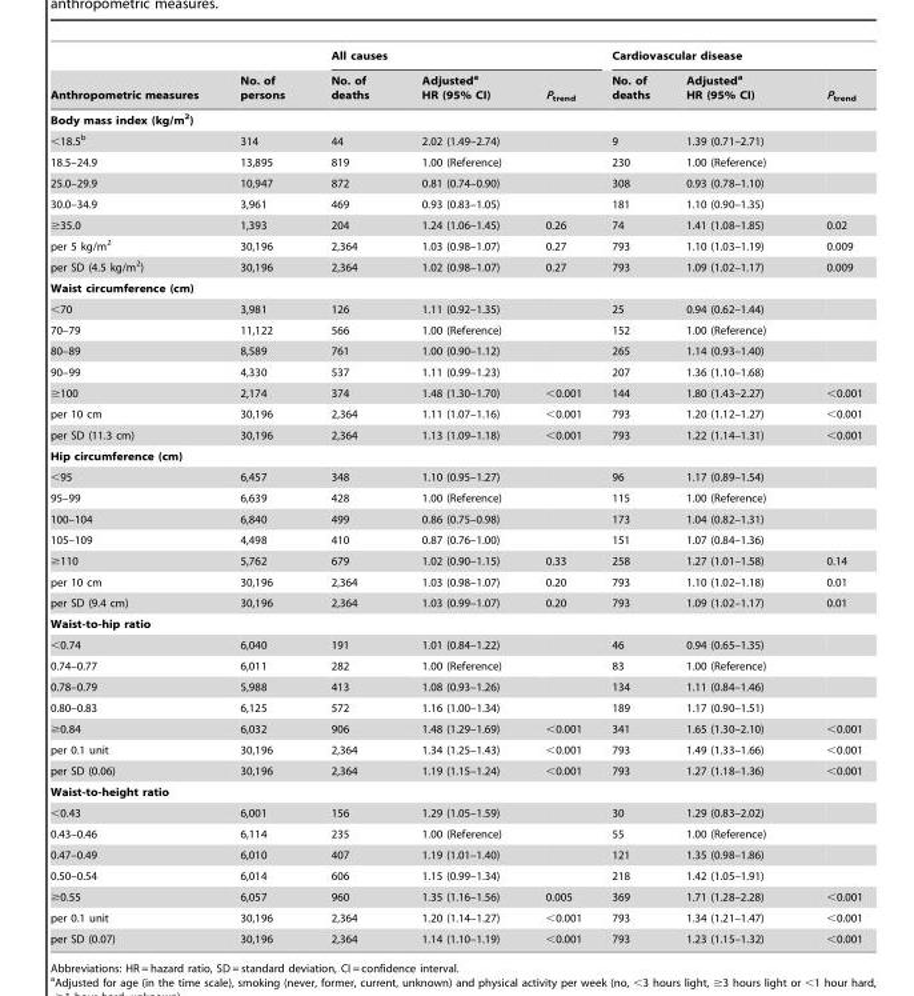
<table><thead><tr><td rowspan="2">Anthropometric measures</td><td rowspan="2">No. of persons</td><td colspan="3">All causes</td><td colspan="3">Cardiovascular disease</td></tr><tr><td>No. of deaths</td><td>Adjusted<sup>a</sup> HR (95% CI)</td><td>P<sub>trend</sub></td><td>No. of deaths</td><td>Adjusted<sup>a</sup> HR (95% CI)</td><td>P<sub>trend</sub></td></tr></thead><tbody><tr><td colspan="8">Body mass index (kg/m<sup>2</sup>)</td></tr><tr><td>&lt;18.5<sup>b</sup></td><td>314</td><td>44</td><td>2.02 (1.49–2.74)</td><td></td><td>9</td><td>1.39 (0.71–2.71)</td><td></td></tr><tr><td>18.5–24.9</td><td>13,895</td><td>819</td><td>1.00 (Reference)</td><td></td><td>230</td><td>1.00 (Reference)</td><td></td></tr><tr><td>25.0–29.9</td><td>10,947</td><td>872</td><td>0.81 (0.74–0.90)</td><td></td><td>308</td><td>0.93 (0.78–1.10)</td><td></td></tr><tr><td>30.0–34.9</td><td>3,961</td><td>469</td><td>0.93 (0.83–1.05)</td><td></td><td>181</td><td>1.10 (0.90–1.35)</td><td></td></tr><tr><td>≥35.0</td><td>1,393</td><td>204</td><td>1.24 (1.06–1.45)</td><td>0.26</td><td>74</td><td>1.41 (1.08–1.85)</td><td>0.02</td></tr><tr><td>per 5 kg/m<sup>2</sup></td><td>30,196</td><td>2,364</td><td>1.03 (0.98–1.07)</td><td>0.27</td><td>793</td><td>1.10 (1.03–1.19)</td><td>0.009</td></tr><tr><td>per SD (4.5 kg/m<sup>2</sup>)</td><td>30,196</td><td>2,364</td><td>1.02 (0.98–1.07)</td><td>0.27</td><td>793</td><td>1.09 (1.02–1.17)</td><td>0.009</td></tr><tr><td colspan="8">Waist circumference (cm)</td></tr><tr><td>&lt;70</td><td>3,981</td><td>126</td><td>1.11 (0.92–1.35)</td><td></td><td>25</td><td>0.94 (0.62–1.44)</td><td></td></tr><tr><td>70–79</td><td>11,122</td><td>566</td><td>1.00 (Reference)</td><td></td><td>152</td><td>1.00 (Reference)</td><td></td></tr><tr><td>80–89</td><td>8,589</td><td>761</td><td>1.00 (0.90–1.12)</td><td></td><td>265</td><td>1.14 (0.93–1.40)</td><td></td></tr><tr><td>90–99</td><td>4,330</td><td>537</td><td>1.11 (0.99–1.23)</td><td></td><td>207</td><td>1.36 (1.10–1.68)</td><td></td></tr><tr><td>≥100</td><td>2,174</td><td>374</td><td>1.48 (1.30–1.70)</td><td>&lt;0.001</td><td>144</td><td>1.80 (1.43–2.27)</td><td>&lt;0.001</td></tr><tr><td>per 10 cm</td><td>30,196</td><td>2,364</td><td>1.11 (1.07–1.16)</td><td>&lt;0.001</td><td>793</td><td>1.20 (1.12–1.27)</td><td>&lt;0.001</td></tr><tr><td>per SD (11.3 cm)</td><td>30,196</td><td>2,364</td><td>1.13 (1.09–1.18)</td><td>&lt;0.001</td><td>793</td><td>1.22 (1.14–1.31)</td><td>&lt;0.001</td></tr><tr><td colspan="8">Hip circumference (cm)</td></tr><tr><td>&lt;95</td><td>6,457</td><td>348</td><td>1.10 (0.95–1.27)</td><td></td><td>96</td><td>1.17 (0.89–1.54)</td><td></td></tr><tr><td>95–99</td><td>6,639</td><td>428</td><td>1.00 (Reference)</td><td></td><td>115</td><td>1.00 (Reference)</td><td></td></tr><tr><td>100–104</td><td>6,840</td><td>499</td><td>0.86 (0.75–0.98)</td><td></td><td>173</td><td>1.04 (0.82–1.31)</td><td></td></tr><tr><td>105–109</td><td>4,498</td><td>410</td><td>0.87 (0.76–1.00)</td><td></td><td>151</td><td>1.07 (0.84–1.36)</td><td></td></tr><tr><td>≥110</td><td>5,762</td><td>679</td><td>1.02 (0.90–1.15)</td><td>0.33</td><td>258</td><td>1.27 (1.01–1.58)</td><td>0.14</td></tr><tr><td>per 10 cm</td><td>30,196</td><td>2,364</td><td>1.03 (0.98–1.07)</td><td>0.20</td><td>793</td><td>1.10 (1.02–1.18)</td><td>0.01</td></tr><tr><td>per SD (9.4 cm)</td><td>30,196</td><td>2,364</td><td>1.03 (0.99–1.07)</td><td>0.20</td><td>793</td><td>1.09 (1.02–1.17)</td><td>0.01</td></tr><tr><td colspan="8">Waist-to-hip ratio</td></tr><tr><td>&lt;0.74</td><td>6,040</td><td>191</td><td>1.01 (0.84–1.22)</td><td></td><td>46</td><td>0.94 (0.65–1.35)</td><td></td></tr><tr><td>0.74–0.77</td><td>6,011</td><td>282</td><td>1.00 (Reference)</td><td></td><td>83</td><td>1.00 (Reference)</td><td></td></tr><tr><td>0.78–0.79</td><td>5,988</td><td>413</td><td>1.08 (0.93–1.26)</td><td></td><td>134</td><td>1.11 (0.84–1.46)</td><td></td></tr><tr><td>0.80–0.83</td><td>6,125</td><td>572</td><td>1.16 (1.00–1.34)</td><td></td><td>189</td><td>1.17 (0.90–1.51)</td><td></td></tr><tr><td>≥0.84</td><td>6,032</td><td>906</td><td>1.48 (1.29–1.69)</td><td>&lt;0.001</td><td>341</td><td>1.65 (1.30–2.10)</td><td>&lt;0.001</td></tr><tr><td>per 0.1 unit</td><td>30,196</td><td>2,364</td><td>1.34 (1.25–1.43)</td><td>&lt;0.001</td><td>793</td><td>1.49 (1.33–1.66)</td><td>&lt;0.001</td></tr><tr><td>per SD (0.06)</td><td>30,196</td><td>2,364</td><td>1.19 (1.15–1.24)</td><td>&lt;0.001</td><td>793</td><td>1.27 (1.18–1.36)</td><td>&lt;0.001</td></tr><tr><td colspan="8">Waist-to-height ratio</td></tr><tr><td>&lt;0.43</td><td>6,001</td><td>156</td><td>1.29 (1.05–1.59)</td><td></td><td>30</td><td>1.29 (0.83–2.02)</td><td></td></tr><tr><td>0.43–0.46</td><td>6,114</td><td>235</td><td>1.00 (Reference)</td><td></td><td>55</td><td>1.00 (Reference)</td><td></td></tr><tr><td>0.47–0.49</td><td>6,010</td><td>407</td><td>1.19 (1.01–1.40)</td><td></td><td>121</td><td>1.35 (0.98–1.86)</td><td></td></tr><tr><td>0.50–0.54</td><td>6,014</td><td>606</td><td>1.15 (0.99–1.34)</td><td></td><td>218</td><td>1.42 (1.05–1.91)</td><td></td></tr><tr><td>≥0.55</td><td>6,057</td><td>960</td><td>1.35 (1.16–1.56)</td><td>0.005</td><td>369</td><td>1.71 (1.28–2.28)</td><td>&lt;0.001</td></tr><tr><td>per 0.1 unit</td><td>30,196</td><td>2,364</td><td>1.20 (1.14–1.27)</td><td>&lt;0.001</td><td>793</td><td>1.34 (1.21–1.47)</td><td>&lt;0.001</td></tr><tr><td>per SD (0.07)</td><td>30,196</td><td>2,364</td><td>1.14 (1.10–1.19)</td><td>&lt;0.001</td><td>793</td><td>1.23 (1.15–1.32)</td><td>&lt;0.001</td></tr></tbody></table>